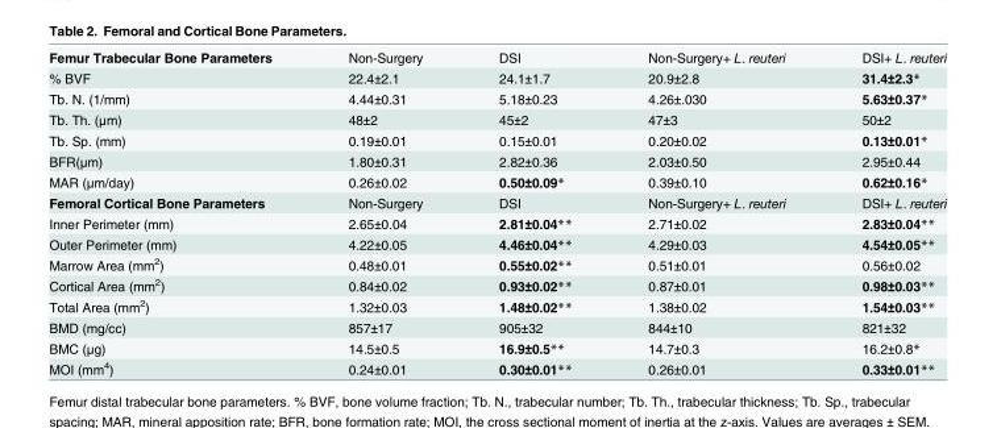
<table><tbody><tr><td>Femur Trabecular Bone Parameters</td><td>Non-Surgery</td><td>DSI</td><td>Non-Surgery+ L. reuteri</td><td>DSI+ L. reuteri</td></tr><tr><td>% BVF</td><td>22.4±2.1</td><td>24.1±1.7</td><td>20.9±2.8</td><td>31.4±2.3*</td></tr><tr><td>Tb. N. (1/mm)</td><td>4.44±0.31</td><td>5.18±0.23</td><td>4.26±.030</td><td>5.63±0.37*</td></tr><tr><td>Tb. Th. (μm)</td><td>48±2</td><td>45±2</td><td>47±3</td><td>50±2</td></tr><tr><td>Tb. Sp. (mm)</td><td>0.19±0.01</td><td>0.15±0.01</td><td>0.20±0.02</td><td>0.13±0.01*</td></tr><tr><td>BFR(μm)</td><td>1.80±0.31</td><td>2.82±0.36</td><td>2.03±0.50</td><td>2.95±0.44</td></tr><tr><td>MAR (μm/day)</td><td>0.26±0.02</td><td>0.50±0.09*</td><td>0.39±0.10</td><td>0.62±0.16*</td></tr><tr><td>Femoral Cortical Bone Parameters</td><td>Non-Surgery</td><td>DSI</td><td>Non-Surgery+ L. reuteri</td><td>DSI+ L. reuteri</td></tr><tr><td>Inner Perimeter (mm)</td><td>2.65±0.04</td><td>2.81±0.04**</td><td>2.71±0.02</td><td>2.83±0.04**</td></tr><tr><td>Outer Perimeter (mm)</td><td>4.22±0.05</td><td>4.46±0.04**</td><td>4.29±0.03</td><td>4.54±0.05**</td></tr><tr><td>Marrow Area (mm<sup>2</sup>)</td><td>0.48±0.01</td><td>0.55±0.02**</td><td>0.51±0.01</td><td>0.56±0.02</td></tr><tr><td>Cortical Area (mm<sup>2</sup>)</td><td>0.84±0.02</td><td>0.93±0.02**</td><td>0.87±0.01</td><td>0.98±0.03**</td></tr><tr><td>Total Area (mm<sup>2</sup>)</td><td>1.32±0.03</td><td>1.48±0.02**</td><td>1.38±0.02</td><td>1.54±0.03**</td></tr><tr><td>BMD (mg/cc)</td><td>857±17</td><td>905±32</td><td>844±10</td><td>821±32</td></tr><tr><td>BMC (μg)</td><td>14.5±0.5</td><td>16.9±0.5**</td><td>14.7±0.3</td><td>16.2±0.8*</td></tr><tr><td>MOI (mm<sup>4</sup>)</td><td>0.24±0.01</td><td>0.30±0.01**</td><td>0.26±0.01</td><td>0.33±0.01**</td></tr></tbody></table>